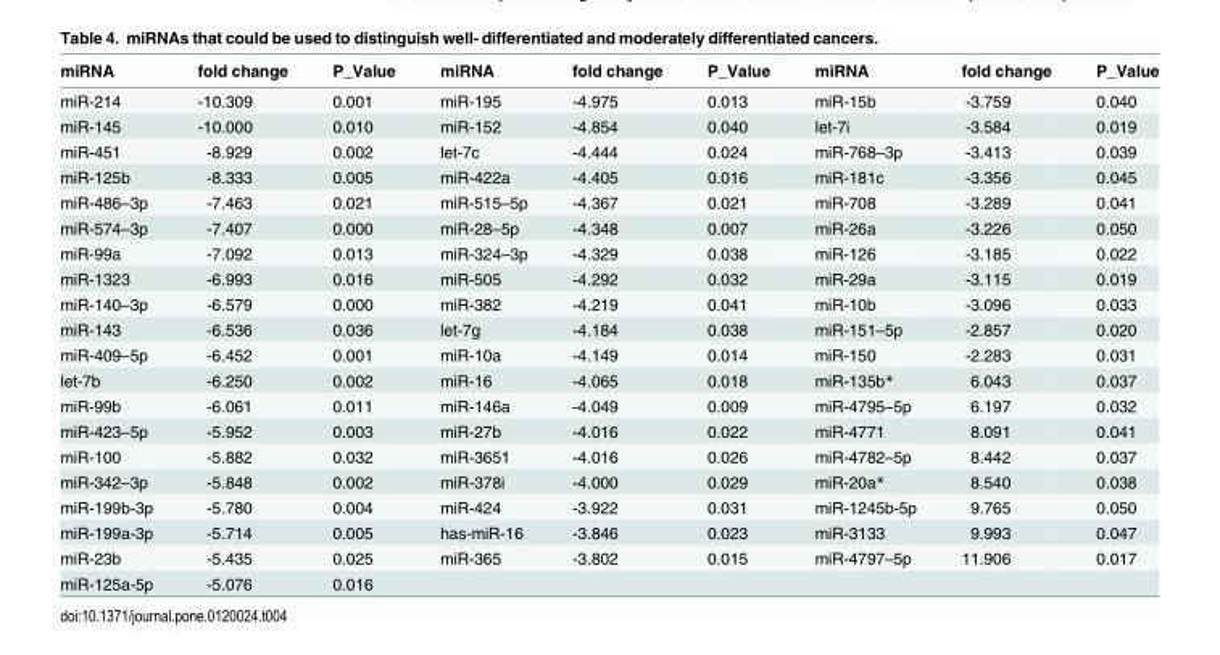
<table><thead><tr><td>miRNA</td><td>fold change</td><td>P_Value</td><td>miRNA</td><td>fold change</td><td>P_Value</td><td>miRNA</td><td>fold change</td><td>P_Value</td></tr></thead><tbody><tr><td>miR-214</td><td>-10.309</td><td>0.001</td><td>miR-195</td><td>-4.975</td><td>0.013</td><td>miR-15b</td><td>-3.759</td><td>0.040</td></tr><tr><td>miR-145</td><td>-10.000</td><td>0.010</td><td>miR-152</td><td>-4.854</td><td>0.040</td><td>let-7i</td><td>-3.584</td><td>0.019</td></tr><tr><td>miR-451</td><td>-8.929</td><td>0.002</td><td>let-7c</td><td>-4.444</td><td>0.024</td><td>miR-768–3p</td><td>-3.413</td><td>0.039</td></tr><tr><td>miR-125b</td><td>-8.333</td><td>0.005</td><td>miR-422a</td><td>-4.405</td><td>0.016</td><td>miR-181c</td><td>-3.356</td><td>0.045</td></tr><tr><td>miR-486–3p</td><td>-7.463</td><td>0.021</td><td>miR-515–5p</td><td>-4.367</td><td>0.021</td><td>miR-708</td><td>-3.289</td><td>0.041</td></tr><tr><td>miR-574–3p</td><td>-7.407</td><td>0.000</td><td>miR-28–5p</td><td>-4.348</td><td>0.007</td><td>miR-26a</td><td>-3.226</td><td>0.050</td></tr><tr><td>miR-99a</td><td>-7.092</td><td>0.013</td><td>miR-324–3p</td><td>-4.329</td><td>0.038</td><td>miR-126</td><td>-3.185</td><td>0.022</td></tr><tr><td>miR-1323</td><td>-6.993</td><td>0.016</td><td>miR-505</td><td>-4.292</td><td>0.032</td><td>miR-29a</td><td>-3.115</td><td>0.019</td></tr><tr><td>miR-140–3p</td><td>-6.579</td><td>0.000</td><td>miR-382</td><td>-4.219</td><td>0.041</td><td>miR-10b</td><td>-3.096</td><td>0.033</td></tr><tr><td>miR-143</td><td>-6.536</td><td>0.036</td><td>let-7g</td><td>-4.184</td><td>0.038</td><td>miR-151–5p</td><td>-2.857</td><td>0.020</td></tr><tr><td>miR-409–5p</td><td>-6.452</td><td>0.001</td><td>miR-10a</td><td>-4.149</td><td>0.014</td><td>miR-150</td><td>-2.283</td><td>0.031</td></tr><tr><td>let-7b</td><td>-6.250</td><td>0.002</td><td>miR-16</td><td>-4.065</td><td>0.018</td><td>miR-135b*</td><td>6.043</td><td>0.037</td></tr><tr><td>miR-99b</td><td>-6.061</td><td>0.011</td><td>miR-146a</td><td>-4.049</td><td>0.009</td><td>miR-4795–5p</td><td>6.197</td><td>0.032</td></tr><tr><td>miR-423–5p</td><td>-5.952</td><td>0.003</td><td>miR-27b</td><td>-4.016</td><td>0.022</td><td>miR-4771</td><td>8.091</td><td>0.041</td></tr><tr><td>miR-100</td><td>-5.882</td><td>0.032</td><td>miR-3651</td><td>-4.016</td><td>0.026</td><td>miR-4782–5p</td><td>8.442</td><td>0.037</td></tr><tr><td>miR-342–3p</td><td>-5.848</td><td>0.002</td><td>miR-378i</td><td>-4.000</td><td>0.029</td><td>miR-20a*</td><td>8.540</td><td>0.038</td></tr><tr><td>miR-199b-3p</td><td>-5.780</td><td>0.004</td><td>miR-424</td><td>-3.922</td><td>0.031</td><td>miR-1245b-5p</td><td>9.765</td><td>0.050</td></tr><tr><td>miR-199a-3p</td><td>-5.714</td><td>0.005</td><td>has-miR-16</td><td>-3.846</td><td>0.023</td><td>miR-3133</td><td>9.993</td><td>0.047</td></tr><tr><td>miR-23b</td><td>-5.435</td><td>0.025</td><td>miR-365</td><td>-3.802</td><td>0.015</td><td>miR-4797–5p</td><td>11.906</td><td>0.017</td></tr><tr><td>miR-125a-5p</td><td>-5.076</td><td>0.016</td><td></td><td></td><td></td><td></td><td></td><td></td></tr></tbody></table>